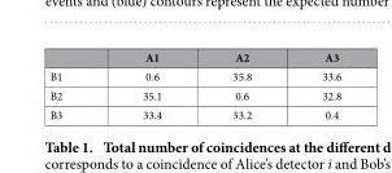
<table><thead><tr><td></td><td>A1</td><td>A2</td><td>A3</td></tr></thead><tbody><tr><td>B1</td><td>0.6</td><td>35.8</td><td>33.6</td></tr><tr><td>B2</td><td>35.1</td><td>0.6</td><td>32.8</td></tr><tr><td>B3</td><td>33.4</td><td>33.2</td><td>0.4</td></tr></tbody></table>